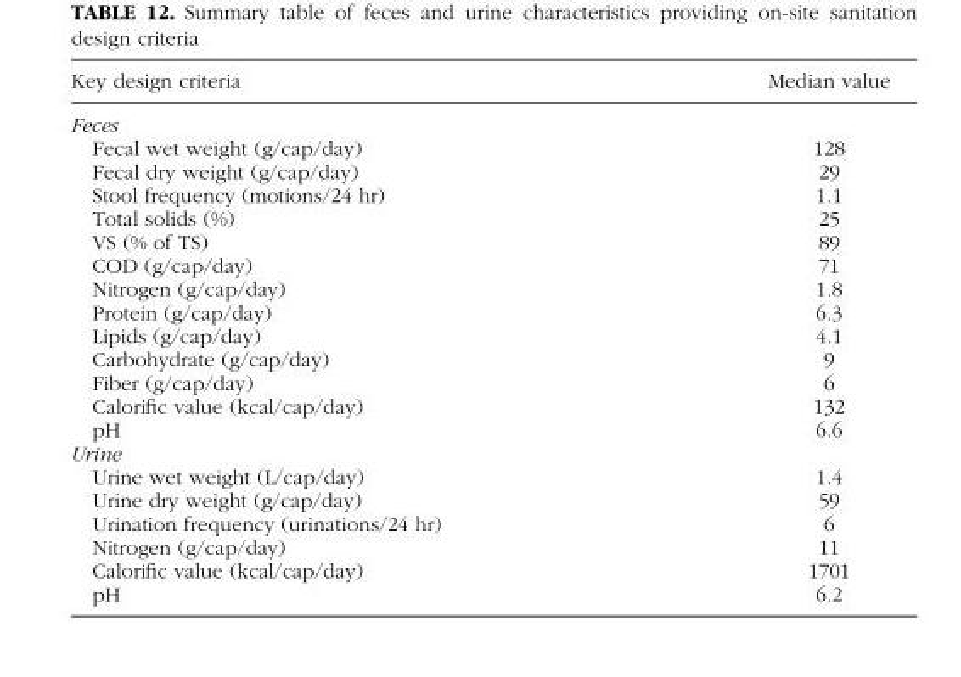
<table><thead><tr><td>Key design criteria</td><td>Median value</td></tr></thead><tbody><tr><td colspan="2">Feces</td></tr><tr><td>Fecal wet weight (g/cap/day)</td><td>128</td></tr><tr><td>Fecal dry weight (g/cap/day)</td><td>29</td></tr><tr><td>Stool frequency (motions/24 hr)</td><td>1.1</td></tr><tr><td>Total solids (%)</td><td>25</td></tr><tr><td>VS (% of TS)</td><td>89</td></tr><tr><td>COD (g/cap/day)</td><td>71</td></tr><tr><td>Nitrogen (g/cap/day)</td><td>1.8</td></tr><tr><td>Protein (g/cap/day)</td><td>6.3</td></tr><tr><td>Lipids (g/cap/day)</td><td>4.1</td></tr><tr><td>Carbohydrate (g/cap/day)</td><td>9</td></tr><tr><td>Fiber (g/cap/day)</td><td>6</td></tr><tr><td>Calorific value (kcal/cap/day)</td><td>132</td></tr><tr><td>pH</td><td>6.6</td></tr><tr><td colspan="2">Urine</td></tr><tr><td>Urine wet weight (L/cap/day)</td><td>1.4</td></tr><tr><td>Urine dry weight (g/cap/day)</td><td>59</td></tr><tr><td>Urination frequency (urinations/24 hr)</td><td>6</td></tr><tr><td>Nitrogen (g/cap/day)</td><td>11</td></tr><tr><td>Calorific value (kcal/cap/day)</td><td>1701</td></tr><tr><td>pH</td><td>6.2</td></tr></tbody></table>